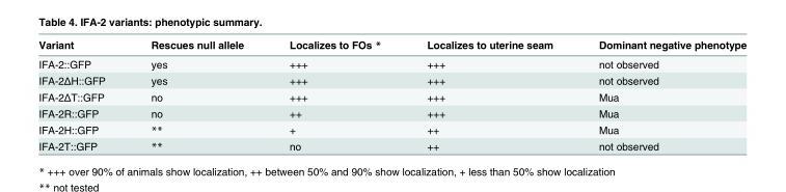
<table><thead><tr><td>Variant</td><td>Rescues null allele</td><td>Localizes to FOs *</td><td>Localizes to uterine seam</td><td>Dominant negative phenotype</td></tr></thead><tbody><tr><td>IFA-2::GFP</td><td>yes</td><td>+++</td><td>+++</td><td>not observed</td></tr><tr><td>IFA-2ΔH::GFP</td><td>yes</td><td>+++</td><td>+++</td><td>not observed</td></tr><tr><td>IFA-2ΔT::GFP</td><td>no</td><td>+++</td><td>+++</td><td>Mua</td></tr><tr><td>IFA-2R::GFP</td><td>no</td><td>++</td><td>+++</td><td>Mua</td></tr><tr><td>IFA-2H::GFP</td><td>**</td><td>+</td><td>++</td><td>Mua</td></tr><tr><td>IFA-2T::GFP</td><td>**</td><td>no</td><td>++</td><td>not observed</td></tr></tbody></table>